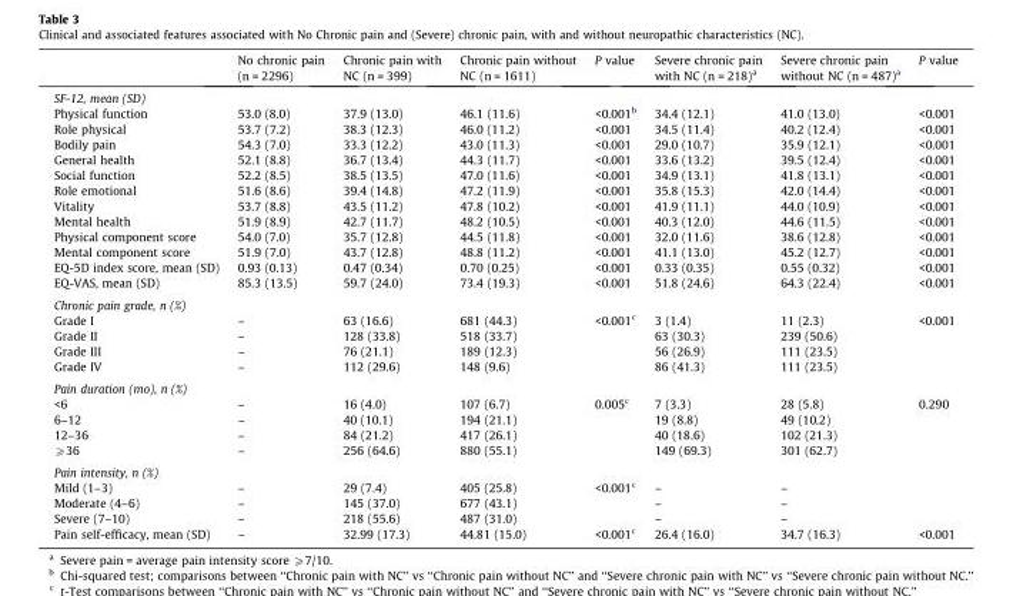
<table><thead><tr><td></td><td>No chronic pain (n = 2296)</td><td>Chronic pain with NC (n = 399)</td><td>Chronic pain without NC (n = 1611)</td><td>P value</td><td>Severe chronic pain with NC (n = 218)<sup>a</sup></td><td>Severe chronic pain without NC (n = 487)<sup>a</sup></td><td>P value</td></tr></thead><tbody><tr><td colspan="8">SF-12, mean (SD)</td></tr><tr><td>Physical function</td><td>53.0 (8.0)</td><td>37.9 (13.0)</td><td>46.1 (11.6)</td><td>&lt;0.001<sup>b</sup></td><td>34.4 (12.1)</td><td>41.0 (13.0)</td><td>&lt;0.001</td></tr><tr><td>Role physical</td><td>53.7 (7.2)</td><td>38.3 (12.3)</td><td>46.0 (11.2)</td><td>&lt;0.001</td><td>34.5 (11.4)</td><td>40.2 (12.4)</td><td>&lt;0.001</td></tr><tr><td>Bodily pain</td><td>54.3 (7.0)</td><td>33.3 (12.2)</td><td>43.0 (11.3)</td><td>&lt;0.001</td><td>29.0 (10.7)</td><td>35.9 (12.1)</td><td>&lt;0.001</td></tr><tr><td>General health</td><td>52.1 (8.8)</td><td>36.7 (13.4)</td><td>44.3 (11.7)</td><td>&lt;0.001</td><td>33.6 (13.2)</td><td>39.5 (12.4)</td><td>&lt;0.001</td></tr><tr><td>Social function</td><td>52.2 (8.5)</td><td>38.5 (13.5)</td><td>47.0 (11.6)</td><td>&lt;0.001</td><td>34.9 (13.1)</td><td>41.8 (13.1)</td><td>&lt;0.001</td></tr><tr><td>Role emotional</td><td>51.6 (8.6)</td><td>39.4 (14.8)</td><td>47.2 (11.9)</td><td>&lt;0.001</td><td>35.8 (15.3)</td><td>42.0 (14.4)</td><td>&lt;0.001</td></tr><tr><td>Vitality</td><td>53.7 (8.8)</td><td>43.5 (11.2)</td><td>47.8 (10.2)</td><td>&lt;0.001</td><td>41.9 (11.1)</td><td>44.0 (10.9)</td><td>&lt;0.001</td></tr><tr><td>Mental health</td><td>51.9 (8.9)</td><td>42.7 (11.7)</td><td>48.2 (10.5)</td><td>&lt;0.001</td><td>40.3 (12.0)</td><td>44.6 (11.5)</td><td>&lt;0.001</td></tr><tr><td>Physical component score</td><td>54.0 (7.0)</td><td>35.7 (12.8)</td><td>44.5 (11.8)</td><td>&lt;0.001</td><td>32.0 (11.6)</td><td>38.6 (12.8)</td><td>&lt;0.001</td></tr><tr><td>Mental component score</td><td>51.9 (7.0)</td><td>43.7 (12.8)</td><td>48.8 (11.2)</td><td>&lt;0.001</td><td>41.1 (13.0)</td><td>45.2 (12.7)</td><td>&lt;0.001</td></tr><tr><td>EQ-5D index score, mean (SD)</td><td>0.93 (0.13)</td><td>0.47 (0.34)</td><td>0.70 (0.25)</td><td>&lt;0.001</td><td>0.33 (0.35)</td><td>0.55 (0.32)</td><td>&lt;0.001</td></tr><tr><td>EQ-VAS, mean (SD)</td><td>85.3 (13.5)</td><td>59.7 (24.0)</td><td>73.4 (19.3)</td><td>&lt;0.001</td><td>51.8 (24.6)</td><td>64.3 (22.4)</td><td>&lt;0.001</td></tr><tr><td colspan="8">Chronic pain grade, n (%)</td></tr><tr><td>Grade I</td><td>–</td><td>63 (16.6)</td><td>681 (44.3)</td><td>&lt;0.001<sup>c</sup></td><td>3 (1.4)</td><td>11 (2.3)</td><td>&lt;0.001</td></tr><tr><td>Grade II</td><td>–</td><td>128 (33.8)</td><td>518 (33.7)</td><td></td><td>63 (30.3)</td><td>239 (50.6)</td><td></td></tr><tr><td>Grade III</td><td>–</td><td>76 (21.1)</td><td>189 (12.3)</td><td></td><td>56 (26.9)</td><td>111 (23.5)</td><td></td></tr><tr><td>Grade IV</td><td>–</td><td>112 (29.6)</td><td>148 (9.6)</td><td></td><td>86 (41.3)</td><td>111 (23.5)</td><td></td></tr><tr><td colspan="8">Pain duration (mo), n (%)</td></tr><tr><td>&lt;6</td><td>–</td><td>16 (4.0)</td><td>107 (6.7)</td><td>0.005<sup>c</sup></td><td>7 (3.3)</td><td>28 (5.8)</td><td>0.290</td></tr><tr><td>6–12</td><td>–</td><td>40 (10.1)</td><td>194 (21.1)</td><td></td><td>19 (8.8)</td><td>49 (10.2)</td><td></td></tr><tr><td>12–36</td><td>–</td><td>84 (21.2)</td><td>417 (26.1)</td><td></td><td>40 (18.6)</td><td>102 (21.3)</td><td></td></tr><tr><td>⩾36</td><td>–</td><td>256 (64.6)</td><td>880 (55.1)</td><td></td><td>149 (69.3)</td><td>301 (62.7)</td><td></td></tr><tr><td colspan="8">Pain intensity, n (%)</td></tr><tr><td>Mild (1–3)</td><td>–</td><td>29 (7.4)</td><td>405 (25.8)</td><td>&lt;0.001<sup>c</sup></td><td>–</td><td>–</td><td></td></tr><tr><td>Moderate (4–6)</td><td>–</td><td>145 (37.0)</td><td>677 (43.1)</td><td></td><td>–</td><td>–</td><td></td></tr><tr><td>Severe (7–10)</td><td>–</td><td>218 (55.6)</td><td>487 (31.0)</td><td></td><td>–</td><td>–</td><td></td></tr><tr><td>Pain self-efficacy, mean (SD)</td><td>–</td><td>32.99 (17.3)</td><td>44.81 (15.0)</td><td>&lt;0.001<sup>c</sup></td><td>26.4 (16.0)</td><td>34.7 (16.3)</td><td>&lt;0.001</td></tr></tbody></table>